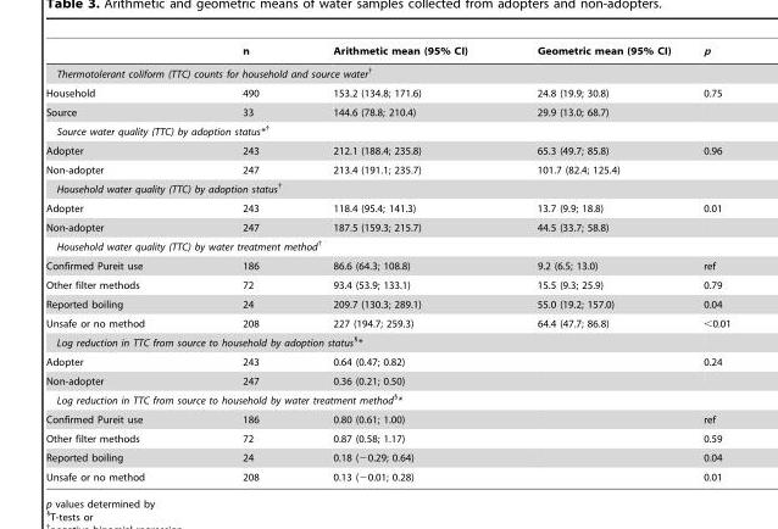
<table><thead><tr><td></td><td>n</td><td>Arithmetic mean (95% CI)</td><td>Geometric mean (95% CI)</td><td>p</td></tr></thead><tbody><tr><td colspan="5">Thermotolerant coliform (TTC) counts for household and source water†</td></tr><tr><td>Household</td><td>490</td><td>153.2 (134.8; 171.6)</td><td>24.8 (19.9; 30.8)</td><td>0.75</td></tr><tr><td>Source</td><td>33</td><td>144.6 (78.8; 210.4)</td><td>29.9 (13.0; 68.7)</td><td></td></tr><tr><td colspan="5">Source water quality (TTC) by adoption status*†</td></tr><tr><td>Adopter</td><td>243</td><td>212.1 (188.4; 235.8)</td><td>65.3 (49.7; 85.8)</td><td>0.96</td></tr><tr><td>Non-adopter</td><td>247</td><td>213.4 (191.1; 235.7)</td><td>101.7 (82.4; 125.4)</td><td></td></tr><tr><td colspan="5">Household water quality (TTC) by adoption status†</td></tr><tr><td>Adopter</td><td>243</td><td>118.4 (95.4; 141.3)</td><td>13.7 (9.9; 18.8)</td><td>0.01</td></tr><tr><td>Non-adopter</td><td>247</td><td>187.5 (159.3; 215.7)</td><td>44.5 (33.7; 58.8)</td><td></td></tr><tr><td colspan="5">Household water quality (TTC) by water treatment method†</td></tr><tr><td>Confirmed Pureit use</td><td>186</td><td>86.6 (64.3; 108.8)</td><td>9.2 (6.5; 13.0)</td><td>ref</td></tr><tr><td>Other filter methods</td><td>72</td><td>93.4 (53.9; 133.1)</td><td>15.5 (9.3; 25.9)</td><td>0.79</td></tr><tr><td>Reported boiling</td><td>24</td><td>209.7 (130.3; 289.1)</td><td>55.0 (19.2; 157.0)</td><td>0.04</td></tr><tr><td>Unsafe or no method</td><td>208</td><td>227 (194.7; 259.3)</td><td>64.4 (47.7; 86.8)</td><td>&lt;0.01</td></tr><tr><td colspan="5">Log reduction in TTC from source to household by adoption status§*</td></tr><tr><td>Adopter</td><td>243</td><td>0.64 (0.47; 0.82)</td><td></td><td>0.24</td></tr><tr><td>Non-adopter</td><td>247</td><td>0.36 (0.21; 0.50)</td><td></td><td></td></tr><tr><td colspan="5">Log reduction in TTC from source to household by water treatment method§*</td></tr><tr><td>Confirmed Pureit use</td><td>186</td><td>0.80 (0.61; 1.00)</td><td></td><td>ref</td></tr><tr><td>Other filter methods</td><td>72</td><td>0.87 (0.58; 1.17)</td><td></td><td>0.59</td></tr><tr><td>Reported boiling</td><td>24</td><td>0.18 (−0.29; 0.64)</td><td></td><td>0.04</td></tr><tr><td>Unsafe or no method</td><td>208</td><td>0.13 (−0.01; 0.28)</td><td></td><td>0.01</td></tr></tbody></table>